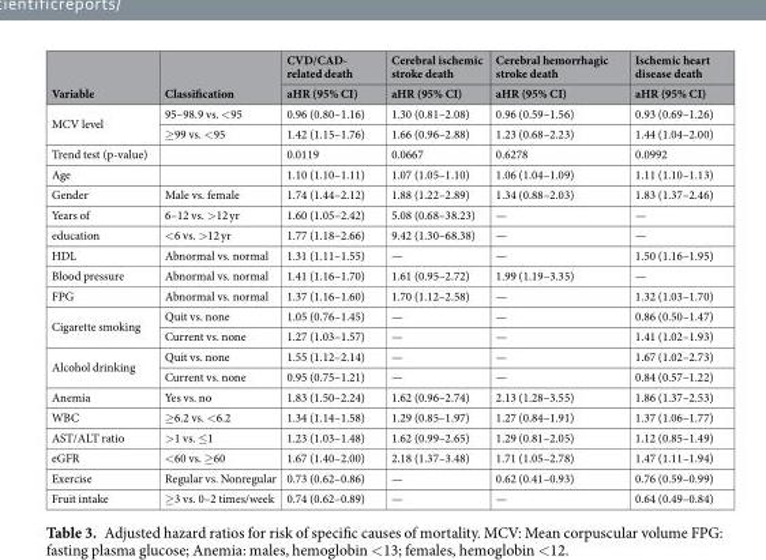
<table><thead><tr><td rowspan="2">Variable</td><td rowspan="2">Classification</td><td rowspan="2">CVD/CAD- related death aHR (95% CI)</td><td rowspan="2">Cerebral ischemic stroke death aHR (95% CI)</td><td rowspan="2">Cerebral hemorrhagic stroke death aHR (95% CI)</td><td rowspan="2">Ischemic heart disease death aHR (95% CI)</td></tr><tr></tr></thead><tbody><tr><td rowspan="2">MCV level</td><td>95–98.9 vs. &lt;95</td><td>0.96 (0.80–1.16)</td><td>1.30 (0.81–2.08)</td><td>0.96 (0.59–1.56)</td><td>0.93 (0.69–1.26)</td></tr><tr><td>≥99 vs. &lt;95</td><td>1.42 (1.15–1.76)</td><td>1.66 (0.96–2.88)</td><td>1.23 (0.68–2.23)</td><td>1.44 (1.04–2.00)</td></tr><tr><td>Trend test (p-value)</td><td></td><td>0.0119</td><td>0.0667</td><td>0.6278</td><td>0.0992</td></tr><tr><td>Age</td><td></td><td>1.10 (1.10–1.11)</td><td>1.07 (1.05–1.10)</td><td>1.06 (1.04–1.09)</td><td>1.11 (1.10–1.13)</td></tr><tr><td>Gender</td><td>Male vs. female</td><td>1.74 (1.44–2.12)</td><td>1.88 (1.22–2.89)</td><td>1.34 (0.88–2.03)</td><td>1.83 (1.37–2.46)</td></tr><tr><td>Years of</td><td>6–12 vs. &gt;12 yr</td><td>1.60 (1.05–2.42)</td><td>5.08 (0.68–38.23)</td><td>—</td><td>—</td></tr><tr><td>education</td><td>&lt;6 vs. &gt;12 yr</td><td>1.77 (1.18–2.66)</td><td>9.42 (1.30–68.38)</td><td>—</td><td>—</td></tr><tr><td>HDL</td><td>Abnormal vs. normal</td><td>1.31 (1.11–1.55)</td><td>—</td><td>—</td><td>1.50 (1.16–1.95)</td></tr><tr><td>Blood pressure</td><td>Abnormal vs. normal</td><td>1.41 (1.16–1.70)</td><td>1.61 (0.95–2.72)</td><td>1.99 (1.19–3.35)</td><td>—</td></tr><tr><td>FPG</td><td>Abnormal vs. normal</td><td>1.37 (1.16–1.60)</td><td>1.70 (1.12–2.58)</td><td>—</td><td>1.32 (1.03–1.70)</td></tr><tr><td rowspan="2">Cigarette smoking</td><td>Quit vs. none</td><td>1.05 (0.76–1.45)</td><td>—</td><td>—</td><td>0.86 (0.50–1.47)</td></tr><tr><td>Current vs. none</td><td>1.27 (1.03–1.57)</td><td>—</td><td>—</td><td>1.41 (1.02–1.93)</td></tr><tr><td rowspan="2">Alcohol drinking</td><td>Quit vs. none</td><td>1.55 (1.12–2.14)</td><td>—</td><td>—</td><td>1.67 (1.02–2.73)</td></tr><tr><td>Current vs. none</td><td>0.95 (0.75–1.21)</td><td>—</td><td>—</td><td>0.84 (0.57–1.22)</td></tr><tr><td>Anemia</td><td>Yes vs. no</td><td>1.83 (1.50–2.24)</td><td>1.62 (0.96–2.74)</td><td>2.13 (1.28–3.55)</td><td>1.86 (1.37–2.53)</td></tr><tr><td>WBC</td><td>≥6.2 vs. &lt;6.2</td><td>1.34 (1.14–1.58)</td><td>1.29 (0.85–1.97)</td><td>1.27 (0.84–1.91)</td><td>1.37 (1.06–1.77)</td></tr><tr><td>AST/ALT ratio</td><td>&gt;1 vs. ≤1</td><td>1.23 (1.03–1.48)</td><td>1.62 (0.99–2.65)</td><td>1.29 (0.81–2.05)</td><td>1.12 (0.85–1.49)</td></tr><tr><td>eGFR</td><td>&lt;60 vs. ≥60</td><td>1.67 (1.40–2.00)</td><td>2.18 (1.37–3.48)</td><td>1.71 (1.05–2.78)</td><td>1.47 (1.11–1.94)</td></tr><tr><td>Exercise</td><td>Regular vs. Nonregular</td><td>0.73 (0.62–0.86)</td><td>—</td><td>0.62 (0.41–0.93)</td><td>0.76 (0.59–0.99)</td></tr><tr><td>Fruit intake</td><td>≥3 vs. 0–2 times/week</td><td>0.74 (0.62–0.89)</td><td>—</td><td>—</td><td>0.64 (0.49–0.84)</td></tr></tbody></table>